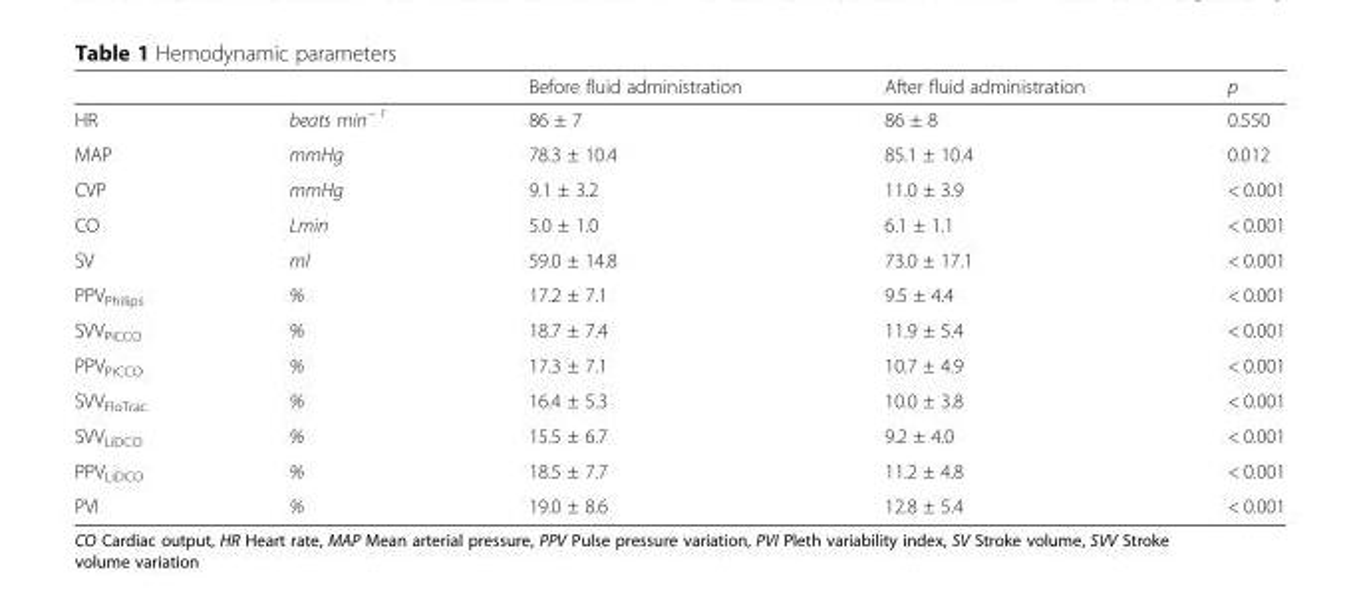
<table><thead><tr><td></td><td></td><td>Before fluid administration</td><td>After fluid administration</td><td>p</td></tr></thead><tbody><tr><td>HR</td><td>beats min<sup>− 1</sup></td><td>86 ± 7</td><td>86 ± 8</td><td>0.550</td></tr><tr><td>MAP</td><td>mmHg</td><td>78.3 ± 10.4</td><td>85.1 ± 10.4</td><td>0.012</td></tr><tr><td>CVP</td><td>mmHg</td><td>9.1 ± 3.2</td><td>11.0 ± 3.9</td><td>&lt; 0.001</td></tr><tr><td>CO</td><td>Lmin</td><td>5.0 ± 1.0</td><td>6.1 ± 1.1</td><td>&lt; 0.001</td></tr><tr><td>SV</td><td>ml</td><td>59.0 ± 14.8</td><td>73.0 ± 17.1</td><td>&lt; 0.001</td></tr><tr><td>PPV<sub>Philips</sub></td><td>%</td><td>17.2 ± 7.1</td><td>9.5 ± 4.4</td><td>&lt; 0.001</td></tr><tr><td>SVV<sub>PiCCO</sub></td><td>%</td><td>18.7 ± 7.4</td><td>11.9 ± 5.4</td><td>&lt; 0.001</td></tr><tr><td>PPV<sub>PiCCO</sub></td><td>%</td><td>17.3 ± 7.1</td><td>10.7 ± 4.9</td><td>&lt; 0.001</td></tr><tr><td>SVV<sub>FloTrac</sub></td><td>%</td><td>16.4 ± 5.3</td><td>10.0 ± 3.8</td><td>&lt; 0.001</td></tr><tr><td>SVV<sub>LiDCO</sub></td><td>%</td><td>15.5 ± 6.7</td><td>9.2 ± 4.0</td><td>&lt; 0.001</td></tr><tr><td>PPV<sub>LiDCO</sub></td><td>%</td><td>18.5 ± 7.7</td><td>11.2 ± 4.8</td><td>&lt; 0.001</td></tr><tr><td>PVI</td><td>%</td><td>19.0 ± 8.6</td><td>12.8 ± 5.4</td><td>&lt; 0.001</td></tr></tbody></table>